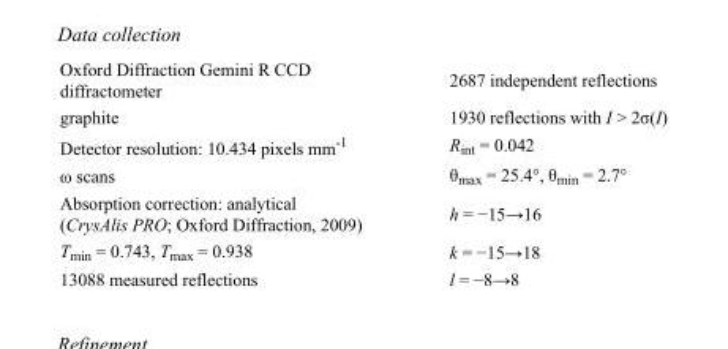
<table><tbody><tr><td>Oxford Diffraction Gemini R CCD diffractometer</td><td>2687 independent reflections</td></tr><tr><td>graphite</td><td>1930 reflections with I &gt; 2σ(I)</td></tr><tr><td>Detector resolution: 10.434 pixels mm<sup>-1</sup></td><td>R<sub>int</sub> = 0.042</td></tr><tr><td>ω scans</td><td>θ<sub>max</sub> = 25.4°, θ<sub>min</sub> = 2.7°</td></tr><tr><td>Absorption correction: analytical (CrysAlis PRO; Oxford Diffraction, 2009)</td><td>h = −15→16</td></tr><tr><td>T<sub>min</sub> = 0.743, T<sub>max</sub> = 0.938</td><td>k = −15→18</td></tr><tr><td>13088 measured reflections</td><td>l = −8→8</td></tr></tbody></table>